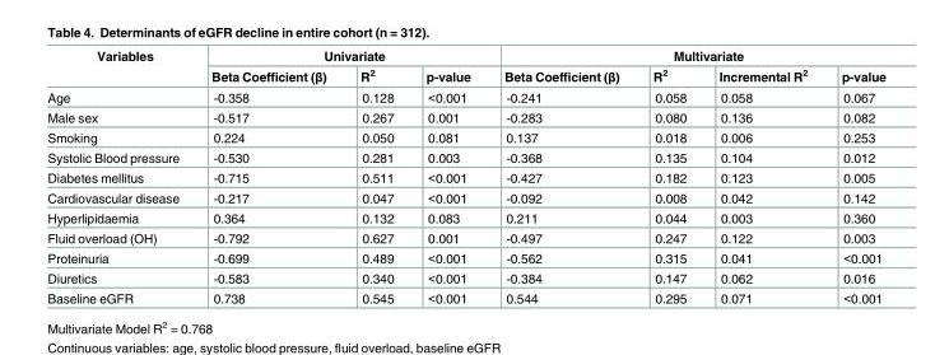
<table><thead><tr><td rowspan="2">Variables</td><td colspan="3">Univariate</td><td colspan="4">Multivariate</td></tr><tr><td>Beta Coefficient (β)</td><td>R<sup>2</sup></td><td>p-value</td><td>Beta Coefficient (β)</td><td>R<sup>2</sup></td><td>Incremental R<sup>2</sup></td><td>p-value</td></tr></thead><tbody><tr><td>Age</td><td>-0.358</td><td>0.128</td><td>&lt;0.001</td><td>-0.241</td><td>0.058</td><td>0.058</td><td>0.067</td></tr><tr><td>Male sex</td><td>-0.517</td><td>0.267</td><td>0.001</td><td>-0.283</td><td>0.080</td><td>0.136</td><td>0.082</td></tr><tr><td>Smoking</td><td>0.224</td><td>0.050</td><td>0.081</td><td>0.137</td><td>0.018</td><td>0.006</td><td>0.253</td></tr><tr><td>Systolic Blood pressure</td><td>-0.530</td><td>0.281</td><td>0.003</td><td>-0.368</td><td>0.135</td><td>0.104</td><td>0.012</td></tr><tr><td>Diabetes mellitus</td><td>-0.715</td><td>0.511</td><td>&lt;0.001</td><td>-0.427</td><td>0.182</td><td>0.123</td><td>0.005</td></tr><tr><td>Cardiovascular disease</td><td>-0.217</td><td>0.047</td><td>&lt;0.001</td><td>-0.092</td><td>0.008</td><td>0.042</td><td>0.142</td></tr><tr><td>Hyperlipidaemia</td><td>0.364</td><td>0.132</td><td>0.083</td><td>0.211</td><td>0.044</td><td>0.003</td><td>0.360</td></tr><tr><td>Fluid overload (OH)</td><td>-0.792</td><td>0.627</td><td>0.001</td><td>-0.497</td><td>0.247</td><td>0.122</td><td>0.003</td></tr><tr><td>Proteinuria</td><td>-0.699</td><td>0.489</td><td>&lt;0.001</td><td>-0.562</td><td>0.315</td><td>0.041</td><td>&lt;0.001</td></tr><tr><td>Diuretics</td><td>-0.583</td><td>0.340</td><td>&lt;0.001</td><td>-0.384</td><td>0.147</td><td>0.062</td><td>0.016</td></tr><tr><td>Baseline eGFR</td><td>0.738</td><td>0.545</td><td>&lt;0.001</td><td>0.544</td><td>0.295</td><td>0.071</td><td>&lt;0.001</td></tr></tbody></table>